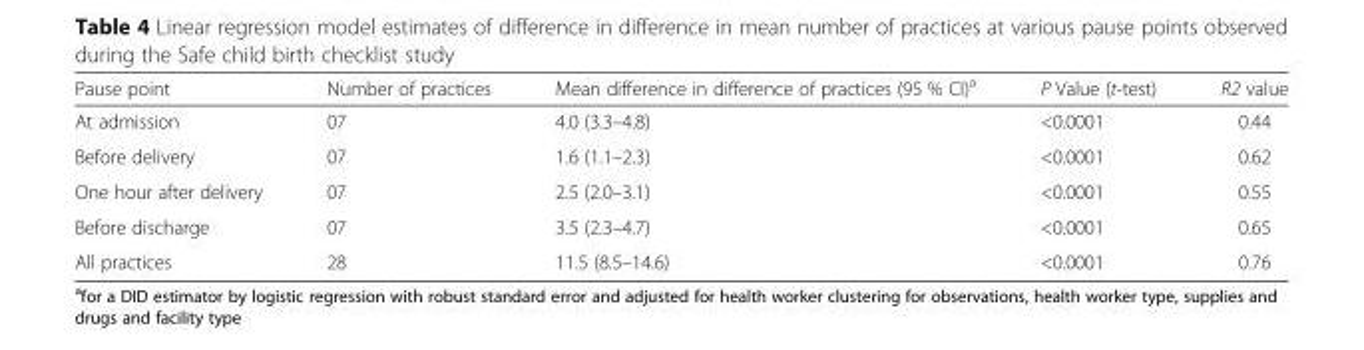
<table><thead><tr><td>Pause point</td><td>Number of practices</td><td>Mean difference in difference of practices (95 % CI)<sup>a</sup></td><td>P Value (t-test)</td><td>R2 value</td></tr></thead><tbody><tr><td>At admission</td><td>07</td><td>4.0 (3.3–4.8)</td><td>&lt;0.0001</td><td>0.44</td></tr><tr><td>Before delivery</td><td>07</td><td>1.6 (1.1–2.3)</td><td>&lt;0.0001</td><td>0.62</td></tr><tr><td>One hour after delivery</td><td>07</td><td>2.5 (2.0–3.1)</td><td>&lt;0.0001</td><td>0.55</td></tr><tr><td>Before discharge</td><td>07</td><td>3.5 (2.3–4.7)</td><td>&lt;0.0001</td><td>0.65</td></tr><tr><td>All practices</td><td>28</td><td>11.5 (8.5–14.6)</td><td>&lt;0.0001</td><td>0.76</td></tr></tbody></table>